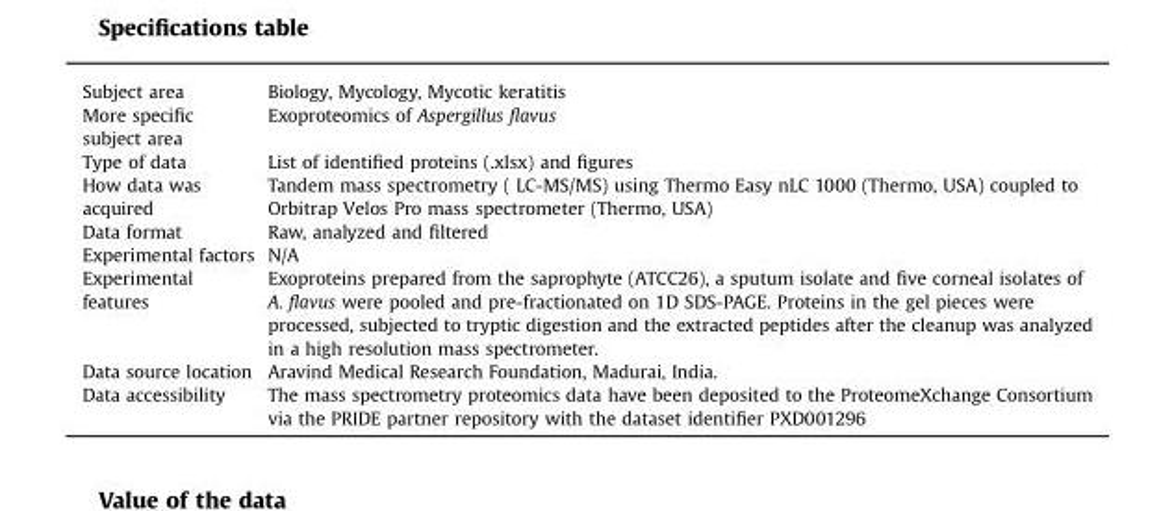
<table><tbody><tr><td>Subject area</td><td>Biology, Mycology, Mycotic keratitis</td></tr><tr><td>More specific subject area</td><td>Exoproteomics of Aspergillus flavus</td></tr><tr><td>Type of data</td><td>List of identified proteins (.xlsx) and figures</td></tr><tr><td>How data was acquired</td><td>Tandem mass spectrometry ( LC-MS/MS) using Thermo Easy nLC 1000 (Thermo, USA) coupled to Orbitrap Velos Pro mass spectrometer (Thermo, USA)</td></tr><tr><td>Data format</td><td>Raw, analyzed and filtered</td></tr><tr><td>Experimental factors</td><td>N/A</td></tr><tr><td>Experimental features</td><td>Exoproteins prepared from the saprophyte (ATCC26), a sputum isolate and five corneal isolates of A. flavus were pooled and pre-fractionated on 1D SDS-PAGE. Proteins in the gel pieces were processed, subjected to tryptic digestion and the extracted peptides after the cleanup was analyzed in a high resolution mass spectrometer.</td></tr><tr><td>Data source location</td><td>Aravind Medical Research Foundation, Madurai, India.</td></tr><tr><td>Data accessibility</td><td>The mass spectrometry proteomics data have been deposited to the ProteomeXchange Consortium via the PRIDE partner repository with the dataset identifier PXD001296</td></tr></tbody></table>